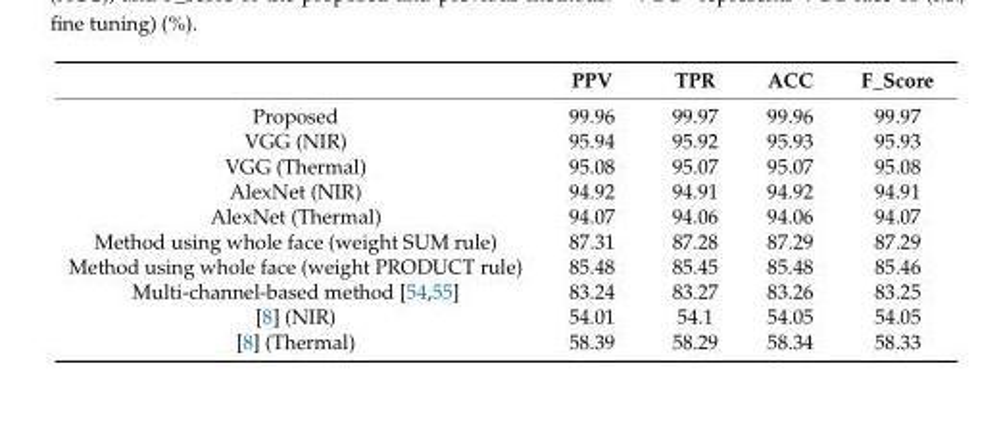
<table><thead><tr><td></td><td>PPV</td><td>TPR</td><td>ACC</td><td>F_Score</td></tr></thead><tbody><tr><td>Proposed</td><td>99.96</td><td>99.97</td><td>99.96</td><td>99.97</td></tr><tr><td>VGG (NIR)</td><td>95.94</td><td>95.92</td><td>95.93</td><td>95.93</td></tr><tr><td>VGG (Thermal)</td><td>95.08</td><td>95.07</td><td>95.07</td><td>95.08</td></tr><tr><td>AlexNet (NIR)</td><td>94.92</td><td>94.91</td><td>94.92</td><td>94.91</td></tr><tr><td>AlexNet (Thermal)</td><td>94.07</td><td>94.06</td><td>94.06</td><td>94.07</td></tr><tr><td>Method using whole face (weight SUM rule)</td><td>87.31</td><td>87.28</td><td>87.29</td><td>87.29</td></tr><tr><td>Method using whole face (weight PRODUCT rule)</td><td>85.48</td><td>85.45</td><td>85.48</td><td>85.46</td></tr><tr><td>Multi-channel-based method [54,55]</td><td>83.24</td><td>83.27</td><td>83.26</td><td>83.25</td></tr><tr><td>[8] (NIR)</td><td>54.01</td><td>54.1</td><td>54.05</td><td>54.05</td></tr><tr><td>[8] (Thermal)</td><td>58.39</td><td>58.29</td><td>58.34</td><td>58.33</td></tr></tbody></table>